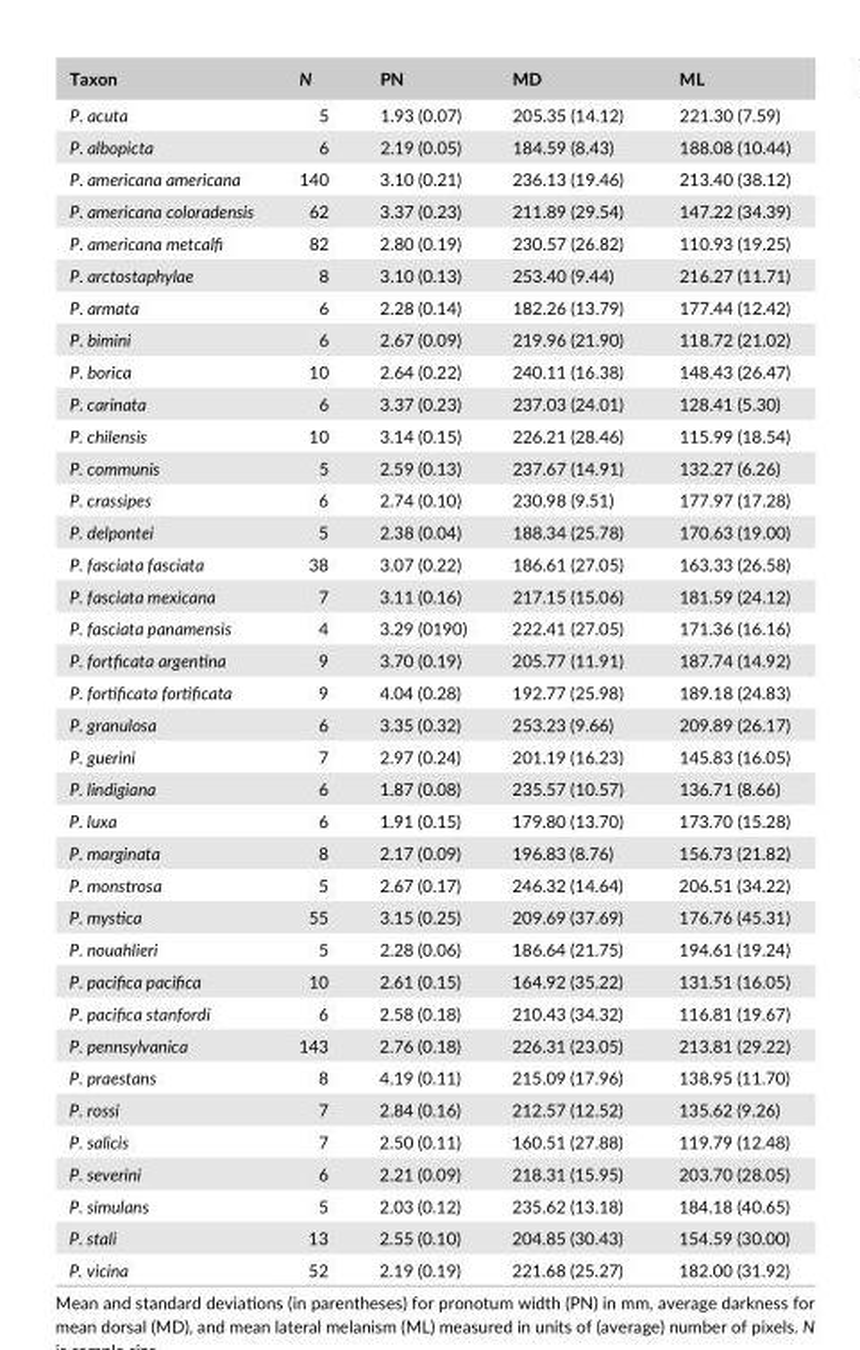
<table><thead><tr><td>Taxon</td><td>N</td><td>PN</td><td>MD</td><td>ML</td></tr></thead><tbody><tr><td>P. acuta</td><td>5</td><td>1.93 (0.07)</td><td>205.35 (14.12)</td><td>221.30 (7.59)</td></tr><tr><td>P. albopicta</td><td>6</td><td>2.19 (0.05)</td><td>184.59 (8.43)</td><td>188.08 (10.44)</td></tr><tr><td>P. americana americana</td><td>140</td><td>3.10 (0.21)</td><td>236.13 (19.46)</td><td>213.40 (38.12)</td></tr><tr><td>P. americana coloradensis</td><td>62</td><td>3.37 (0.23)</td><td>211.89 (29.54)</td><td>147.22 (34.39)</td></tr><tr><td>P. americana metcalfi</td><td>82</td><td>2.80 (0.19)</td><td>230.57 (26.82)</td><td>110.93 (19.25)</td></tr><tr><td>P. arctostaphylae</td><td>8</td><td>3.10 (0.13)</td><td>253.40 (9.44)</td><td>216.27 (11.71)</td></tr><tr><td>P. armata</td><td>6</td><td>2.28 (0.14)</td><td>182.26 (13.79)</td><td>177.44 (12.42)</td></tr><tr><td>P. bimini</td><td>6</td><td>2.67 (0.09)</td><td>219.96 (21.90)</td><td>118.72 (21.02)</td></tr><tr><td>P. borica</td><td>10</td><td>2.64 (0.22)</td><td>240.11 (16.38)</td><td>148.43 (26.47)</td></tr><tr><td>P. carinata</td><td>6</td><td>3.37 (0.23)</td><td>237.03 (24.01)</td><td>128.41 (5.30)</td></tr><tr><td>P. chilensis</td><td>10</td><td>3.14 (0.15)</td><td>226.21 (28.46)</td><td>115.99 (18.54)</td></tr><tr><td>P. communis</td><td>5</td><td>2.59 (0.13)</td><td>237.67 (14.91)</td><td>132.27 (6.26)</td></tr><tr><td>P. crassipes</td><td>6</td><td>2.74 (0.10)</td><td>230.98 (9.51)</td><td>177.97 (17.28)</td></tr><tr><td>P. delpontei</td><td>5</td><td>2.38 (0.04)</td><td>188.34 (25.78)</td><td>170.63 (19.00)</td></tr><tr><td>P. fasciata fasciata</td><td>38</td><td>3.07 (0.22)</td><td>186.61 (27.05)</td><td>163.33 (26.58)</td></tr><tr><td>P. fasciata mexicana</td><td>7</td><td>3.11 (0.16)</td><td>217.15 (15.06)</td><td>181.59 (24.12)</td></tr><tr><td>P. fasciata panamensis</td><td>4</td><td>3.29 (0190)</td><td>222.41 (27.05)</td><td>171.36 (16.16)</td></tr><tr><td>P. fortficata argentina</td><td>9</td><td>3.70 (0.19)</td><td>205.77 (11.91)</td><td>187.74 (14.92)</td></tr><tr><td>P. fortificata fortificata</td><td>9</td><td>4.04 (0.28)</td><td>192.77 (25.98)</td><td>189.18 (24.83)</td></tr><tr><td>P. granulosa</td><td>6</td><td>3.35 (0.32)</td><td>253.23 (9.66)</td><td>209.89 (26.17)</td></tr><tr><td>P. guerini</td><td>7</td><td>2.97 (0.24)</td><td>201.19 (16.23)</td><td>145.83 (16.05)</td></tr><tr><td>P. lindigiana</td><td>6</td><td>1.87 (0.08)</td><td>235.57 (10.57)</td><td>136.71 (8.66)</td></tr><tr><td>P. luxa</td><td>6</td><td>1.91 (0.15)</td><td>179.80 (13.70)</td><td>173.70 (15.28)</td></tr><tr><td>P. marginata</td><td>8</td><td>2.17 (0.09)</td><td>196.83 (8.76)</td><td>156.73 (21.82)</td></tr><tr><td>P. monstrosa</td><td>5</td><td>2.67 (0.17)</td><td>246.32 (14.64)</td><td>206.51 (34.22)</td></tr><tr><td>P. mystica</td><td>55</td><td>3.15 (0.25)</td><td>209.69 (37.69)</td><td>176.76 (45.31)</td></tr><tr><td>P. nouahlieri</td><td>5</td><td>2.28 (0.06)</td><td>186.64 (21.75)</td><td>194.61 (19.24)</td></tr><tr><td>P. pacifica pacifica</td><td>10</td><td>2.61 (0.15)</td><td>164.92 (35.22)</td><td>131.51 (16.05)</td></tr><tr><td>P. pacifica stanfordi</td><td>6</td><td>2.58 (0.18)</td><td>210.43 (34.32)</td><td>116.81 (19.67)</td></tr><tr><td>P. pennsylvanica</td><td>143</td><td>2.76 (0.18)</td><td>226.31 (23.05)</td><td>213.81 (29.22)</td></tr><tr><td>P. praestans</td><td>8</td><td>4.19 (0.11)</td><td>215.09 (17.96)</td><td>138.95 (11.70)</td></tr><tr><td>P. rossi</td><td>7</td><td>2.84 (0.16)</td><td>212.57 (12.52)</td><td>135.62 (9.26)</td></tr><tr><td>P. salicis</td><td>7</td><td>2.50 (0.11)</td><td>160.51 (27.88)</td><td>119.79 (12.48)</td></tr><tr><td>P. severini</td><td>6</td><td>2.21 (0.09)</td><td>218.31 (15.95)</td><td>203.70 (28.05)</td></tr><tr><td>P. simulans</td><td>5</td><td>2.03 (0.12)</td><td>235.62 (13.18)</td><td>184.18 (40.65)</td></tr><tr><td>P. stali</td><td>13</td><td>2.55 (0.10)</td><td>204.85 (30.43)</td><td>154.59 (30.00)</td></tr><tr><td>P. vicina</td><td>52</td><td>2.19 (0.19)</td><td>221.68 (25.27)</td><td>182.00 (31.92)</td></tr></tbody></table>